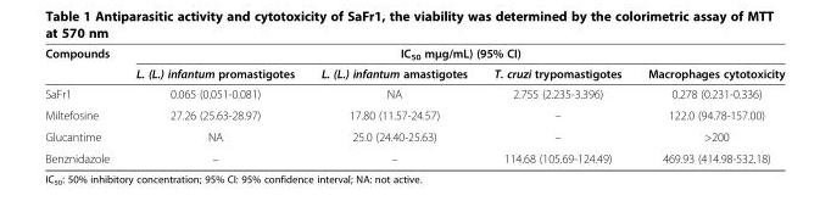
<table><thead><tr><td rowspan="2">Compounds</td><td colspan="4">IC<sub>50</sub> mμg/mL) (95% CI)</td></tr><tr><td>L. (L.) infantum promastigotes</td><td>L. (L.) infantum amastigotes</td><td>T. cruzi trypomastigotes</td><td>Macrophages cytotoxicity</td></tr></thead><tbody><tr><td>SaFr1</td><td>0.065 (0.051-0.081)</td><td>NA</td><td>2.755 (2.235-3.396)</td><td>0.278 (0.231-0.336)</td></tr><tr><td>Miltefosine</td><td>27.26 (25.63-28.97)</td><td>17.80 (11.57-24.57)</td><td>–</td><td>122.0 (94.78-157.00)</td></tr><tr><td>Glucantime</td><td>NA</td><td>25.0 (24.40-25.63)</td><td>–</td><td>&gt;200</td></tr><tr><td>Benznidazole</td><td>–</td><td>–</td><td>114.68 (105.69-124.49)</td><td>469.93 (414.98-532.18)</td></tr></tbody></table>